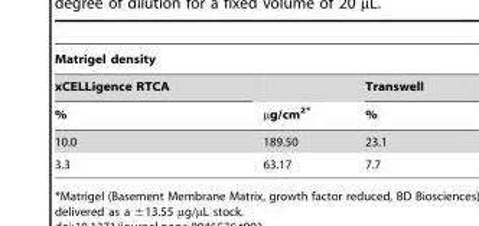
<table><thead><tr><td colspan="3">Matrigel density</td></tr><tr><td rowspan="2">xCELLigence RTCA %</td><td rowspan="2">µg/cm<sup>2</sup>*</td><td rowspan="2">Transwell %</td></tr><tr></tr></thead><tbody><tr><td>10.0</td><td>189.50</td><td>23.1</td></tr><tr><td>3.3</td><td>63.17</td><td>7.7</td></tr></tbody></table>